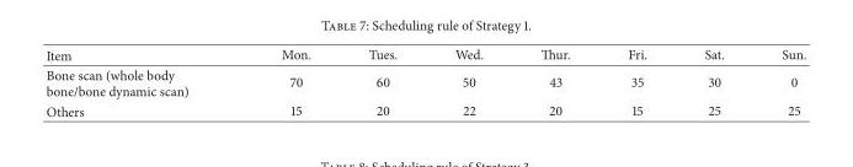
<table><thead><tr><td>Item</td><td>Mon.</td><td>Tues.</td><td>Wed.</td><td>Thur.</td><td>Fri.</td><td>Sat.</td><td>Sun.</td></tr></thead><tbody><tr><td>Bone scan (whole body bone/bone dynamic scan)</td><td>70</td><td>60</td><td>50</td><td>43</td><td>35</td><td>30</td><td>0</td></tr><tr><td>Others</td><td>15</td><td>20</td><td>22</td><td>20</td><td>15</td><td>25</td><td>25</td></tr></tbody></table>